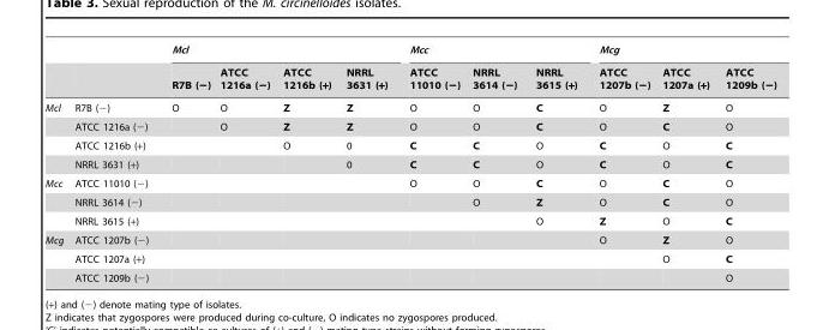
<table><thead><tr><td rowspan="2"></td><td rowspan="2"></td><td colspan="4">Mcl</td><td colspan="3">Mcc</td><td colspan="3">Mcg</td></tr><tr><td>R7B (−)</td><td>ATCC 1216a (−)</td><td>ATCC 1216b (+)</td><td>NRRL 3631 (+)</td><td>ATCC 11010 (−)</td><td>NRRL 3614 (−)</td><td>NRRL 3615 (+)</td><td>ATCC 1207b (−)</td><td>ATCC 1207a (+)</td><td>ATCC 1209b (−)</td></tr></thead><tbody><tr><td rowspan="4">Mcl</td><td>R7B (−)</td><td>O</td><td>O</td><td>Z</td><td>Z</td><td>O</td><td>O</td><td>C</td><td>O</td><td>Z</td><td>O</td></tr><tr><td>ATCC 1216a (−)</td><td></td><td>O</td><td>Z</td><td>Z</td><td>O</td><td>O</td><td>C</td><td>O</td><td>C</td><td>O</td></tr><tr><td>ATCC 1216b (+)</td><td></td><td></td><td>O</td><td>0</td><td>C</td><td>C</td><td>O</td><td>C</td><td>O</td><td>C</td></tr><tr><td>NRRL 3631 (+)</td><td></td><td></td><td></td><td>0</td><td>C</td><td>C</td><td>O</td><td>C</td><td>O</td><td>C</td></tr><tr><td rowspan="3">Mcc</td><td>ATCC 11010 (−)</td><td></td><td></td><td></td><td></td><td>O</td><td>O</td><td>C</td><td>O</td><td>C</td><td>O</td></tr><tr><td>NRRL 3614 (−)</td><td></td><td></td><td></td><td></td><td></td><td>O</td><td>Z</td><td>O</td><td>C</td><td>O</td></tr><tr><td>NRRL 3615 (+)</td><td></td><td></td><td></td><td></td><td></td><td></td><td>O</td><td>Z</td><td>O</td><td>C</td></tr><tr><td rowspan="3">Mcg</td><td>ATCC 1207b (−)</td><td></td><td></td><td></td><td></td><td></td><td></td><td></td><td>O</td><td>Z</td><td>O</td></tr><tr><td>ATCC 1207a (+)</td><td></td><td></td><td></td><td></td><td></td><td></td><td></td><td></td><td>O</td><td>C</td></tr><tr><td>ATCC 1209b (−)</td><td></td><td></td><td></td><td></td><td></td><td></td><td></td><td></td><td></td><td>O</td></tr></tbody></table>